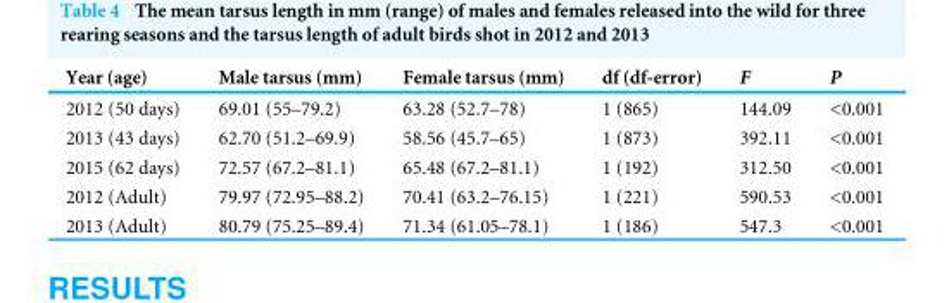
<table><thead><tr><td>Year (age)</td><td>Male tarsus (mm)</td><td>Female tarsus (mm)</td><td>df (df-error)</td><td>F</td><td>P</td></tr></thead><tbody><tr><td>2012 (50 days)</td><td>69.01 (55–79.2)</td><td>63.28 (52.7–78)</td><td>1 (865)</td><td>144.09</td><td>&lt;0.001</td></tr><tr><td>2013 (43 days)</td><td>62.70 (51.2–69.9)</td><td>58.56 (45.7–65)</td><td>1 (873)</td><td>392.11</td><td>&lt;0.001</td></tr><tr><td>2015 (62 days)</td><td>72.57 (67.2–81.1)</td><td>65.48 (67.2–81.1)</td><td>1 (192)</td><td>312.50</td><td>&lt;0.001</td></tr><tr><td>2012 (Adult)</td><td>79.97 (72.95–88.2)</td><td>70.41 (63.2–76.15)</td><td>1 (221)</td><td>590.53</td><td>&lt;0.001</td></tr><tr><td>2013 (Adult)</td><td>80.79 (75.25–89.4)</td><td>71.34 (61.05–78.1)</td><td>1 (186)</td><td>547.3</td><td>&lt;0.001</td></tr></tbody></table>